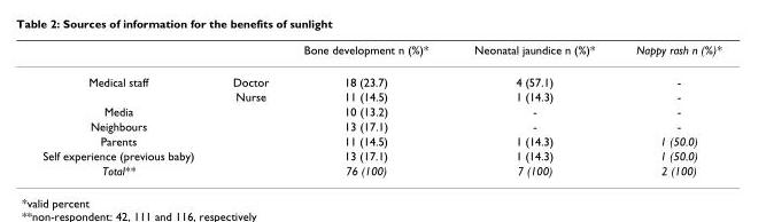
<table><thead><tr><td></td><td></td><td>Bone development n (%)*</td><td>Neonatal jaundice n (%)*</td><td>Nappy rash n (%)*</td></tr></thead><tbody><tr><td rowspan="2">Medical staff</td><td>Doctor</td><td>18 (23.7)</td><td>4 (57.1)</td><td>-</td></tr><tr><td>Nurse</td><td>11 (14.5)</td><td>1 (14.3)</td><td>-</td></tr><tr><td>Media</td><td></td><td>10 (13.2)</td><td>-</td><td>-</td></tr><tr><td>Neighbours</td><td></td><td>13 (17.1)</td><td>-</td><td>-</td></tr><tr><td>Parents</td><td></td><td>11 (14.5)</td><td>1 (14.3)</td><td>1 (50.0)</td></tr><tr><td>Self experience (previous baby)</td><td></td><td>13 (17.1)</td><td>1 (14.3)</td><td>1 (50.0)</td></tr><tr><td>Total**</td><td></td><td>76 (100)</td><td>7 (100)</td><td>2 (100)</td></tr></tbody></table>